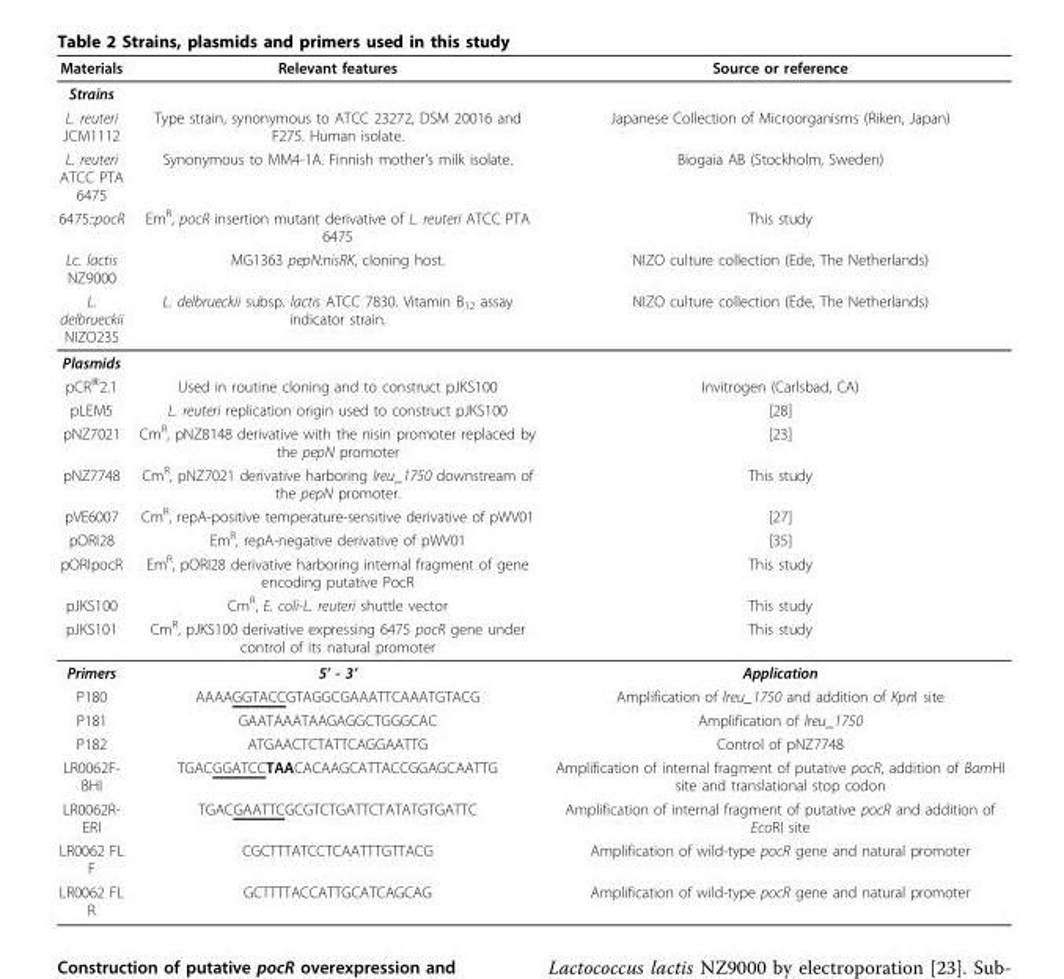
<table><thead><tr><td>Materials</td><td>Relevant features</td><td>Source or reference</td></tr></thead><tbody><tr><td colspan="3">Strains</td></tr><tr><td>L. reuteri JCM1112</td><td>Type strain, synonymous to ATCC 23272, DSM 20016 and F275. Human isolate.</td><td>Japanese Collection of Microorganisms (Riken, Japan)</td></tr><tr><td>L. reuteri ATCC PTA 6475</td><td>Synonymous to MM4-1A. Finnish mother’s milk isolate.</td><td>Biogaia AB (Stockholm, Sweden)</td></tr><tr><td>6475::pocR</td><td>Em<sup>R</sup>, pocR insertion mutant derivative of L. reuteri ATCC PTA 6475</td><td>This study</td></tr><tr><td>Lc. lactis NZ9000</td><td>MG1363 pepN:nisRK, cloning host.</td><td>NIZO culture collection (Ede, The Netherlands)</td></tr><tr><td>L. delbrueckii NIZO235</td><td>L. delbrueckii subsp. lactis ATCC 7830. Vitamin B<sub>12</sub> assay indicator strain.</td><td>NIZO culture collection (Ede, The Netherlands)</td></tr><tr><td colspan="3">Plasmids</td></tr><tr><td>pCR<sup>®</sup>2.1</td><td>Used in routine cloning and to construct pJKS100</td><td>Invitrogen (Carlsbad, CA)</td></tr><tr><td>pLEM5</td><td>L. reuteri replication origin used to construct pJKS100</td><td>[28]</td></tr><tr><td>pNZ7021</td><td>Cm<sup>R</sup>, pNZ8148 derivative with the nisin promoter replaced by the pepN promoter</td><td>[23]</td></tr><tr><td>pNZ7748</td><td>Cm<sup>R</sup>, pNZ7021 derivative harboring lreu_1750 downstream of the pepN promoter.</td><td>This study</td></tr><tr><td>pVE6007</td><td>Cm<sup>R</sup>, repA-positive temperature-sensitive derivative of pWV01</td><td>[27]</td></tr><tr><td>pORI28</td><td>Em<sup>R</sup>, repA-negative derivative of pWV01</td><td>[35]</td></tr><tr><td>pORIpocR</td><td>Em<sup>R</sup>, pORI28 derivative harboring internal fragment of gene encoding putative PocR</td><td>This study</td></tr><tr><td>pJKS100</td><td>Cm<sup>R</sup>, E. coli-L. reuteri shuttle vector</td><td>This study</td></tr><tr><td>pJKS101</td><td>Cm<sup>R</sup>, pJKS100 derivative expressing 6475 pocR gene under control of its natural promoter</td><td>This study</td></tr><tr><td>Primers</td><td>5’ - 3’</td><td>Application</td></tr><tr><td>P180</td><td>AAAAGGTACCGTAGGCGAAATTCAAATGTACG</td><td>Amplification of lreu_1750 and addition of KpnI site</td></tr><tr><td>P181</td><td>GAATAAATAAGAGGCTGGGCAC</td><td>Amplification of lreu_1750</td></tr><tr><td>P182</td><td>ATGAACTCTATTCAGGAATTG</td><td>Control of pNZ7748</td></tr><tr><td>LR0062F- BHI</td><td>TGACGGATCCTAACACAAGCATTACCGGAGCAATTG</td><td>Amplification of internal fragment of putative pocR, addition of BamHI site and translational stop codon</td></tr><tr><td>LR0062R- ERI</td><td>TGACGAATTCGCGTCTGATTCTATATGTGATTC</td><td>Amplification of internal fragment of putative pocR and addition of EcoRI site</td></tr><tr><td>LR0062 FL F</td><td>CGCTTTATCCTCAATTTGTTACG</td><td>Amplification of wild-type pocR gene and natural promoter</td></tr><tr><td>LR0062 FL R</td><td>GCTTTTACCATTGCATCAGCAG</td><td>Amplification of wild-type pocR gene and natural promoter</td></tr></tbody></table>